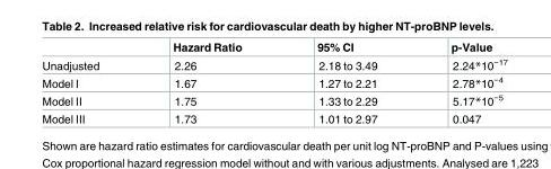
<table><thead><tr><td></td><td>Hazard Ratio</td><td>95% CI</td><td>p-Value</td></tr></thead><tbody><tr><td>Unadjusted</td><td>2.26</td><td>2.18 to 3.49</td><td>2.24*10<sup>−17</sup></td></tr><tr><td>Model I</td><td>1.67</td><td>1.27 to 2.21</td><td>2.78*10<sup>−4</sup></td></tr><tr><td>Model II</td><td>1.75</td><td>1.33 to 2.29</td><td>5.17*10<sup>−5</sup></td></tr><tr><td>Model III</td><td>1.73</td><td>1.01 to 2.97</td><td>0.047</td></tr></tbody></table>